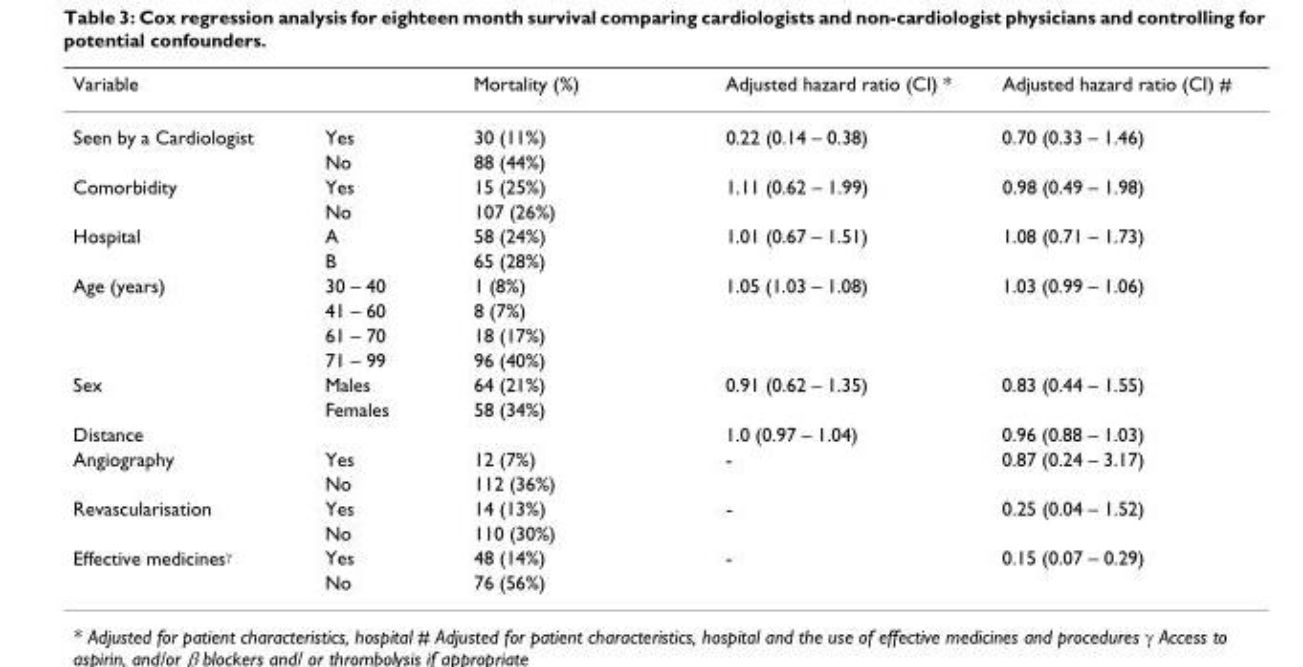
<table><thead><tr><td>Variable</td><td></td><td>Mortality (%)</td><td>Adjusted hazard ratio (CI) *</td><td>Adjusted hazard ratio (CI) #</td></tr></thead><tbody><tr><td rowspan="2">Seen by a Cardiologist</td><td>Yes</td><td>30 (11%)</td><td>0.22 (0.14 – 0.38)</td><td>0.70 (0.33 – 1.46)</td></tr><tr><td>No</td><td>88 (44%)</td><td></td><td></td></tr><tr><td rowspan="2">Comorbidity</td><td>Yes</td><td>15 (25%)</td><td>1.11 (0.62 – 1.99)</td><td>0.98 (0.49 – 1.98)</td></tr><tr><td>No</td><td>107 (26%)</td><td></td><td></td></tr><tr><td rowspan="2">Hospital</td><td>A</td><td>58 (24%)</td><td>1.01 (0.67 – 1.51)</td><td>1.08 (0.71 – 1.73)</td></tr><tr><td>B</td><td>65 (28%)</td><td></td><td></td></tr><tr><td rowspan="4">Age (years)</td><td>30 – 40</td><td>1 (8%)</td><td>1.05 (1.03 – 1.08)</td><td>1.03 (0.99 – 1.06)</td></tr><tr><td>41 – 60</td><td>8 (7%)</td><td></td><td></td></tr><tr><td>61 – 70</td><td>18 (17%)</td><td></td><td></td></tr><tr><td>71 – 99</td><td>96 (40%)</td><td></td><td></td></tr><tr><td rowspan="2">Sex</td><td>Males</td><td>64 (21%)</td><td>0.91 (0.62 – 1.35)</td><td>0.83 (0.44 – 1.55)</td></tr><tr><td>Females</td><td>58 (34%)</td><td></td><td></td></tr><tr><td>Distance</td><td></td><td></td><td>1.0 (0.97 – 1.04)</td><td>0.96 (0.88 – 1.03)</td></tr><tr><td rowspan="2">Angiography</td><td>Yes</td><td>12 (7%)</td><td>-</td><td>0.87 (0.24 – 3.17)</td></tr><tr><td>No</td><td>112 (36%)</td><td></td><td></td></tr><tr><td rowspan="2">Revascularisation</td><td>Yes</td><td>14 (13%)</td><td>-</td><td>0.25 (0.04 – 1.52)</td></tr><tr><td>No</td><td>110 (30%)</td><td></td><td></td></tr><tr><td rowspan="2">Effective medicines<sup>γ</sup></td><td>Yes</td><td>48 (14%)</td><td>-</td><td>0.15 (0.07 – 0.29)</td></tr><tr><td>No</td><td>76 (56%)</td><td></td><td></td></tr></tbody></table>